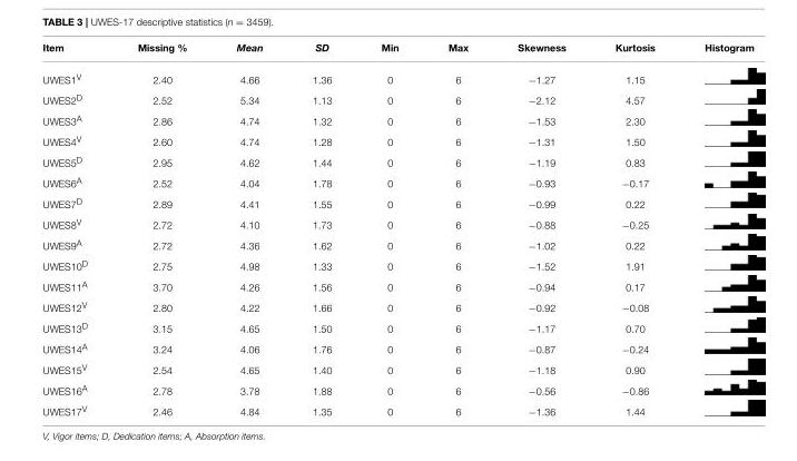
<table><thead><tr><td>Item</td><td>Missing %</td><td>Mean</td><td>SD</td><td>Min</td><td>Max</td><td>Skewness</td><td>Kurtosis</td><td>Histogram</td></tr></thead><tbody><tr><td>UWES1<sup>V</sup></td><td>2.40</td><td>4.66</td><td>1.36</td><td>0</td><td>6</td><td>−1.27</td><td>1.15</td><td></td></tr><tr><td>UWES2<sup>D</sup></td><td>2.52</td><td>5.34</td><td>1.13</td><td>0</td><td>6</td><td>−2.12</td><td>4.57</td><td></td></tr><tr><td>UWES3<sup>A</sup></td><td>2.86</td><td>4.74</td><td>1.32</td><td>0</td><td>6</td><td>−1.53</td><td>2.30</td><td></td></tr><tr><td>UWES4<sup>V</sup></td><td>2.60</td><td>4.74</td><td>1.28</td><td>0</td><td>6</td><td>−1.31</td><td>1.50</td><td></td></tr><tr><td>UWES5<sup>D</sup></td><td>2.95</td><td>4.62</td><td>1.44</td><td>0</td><td>6</td><td>−1.19</td><td>0.83</td><td></td></tr><tr><td>UWES6<sup>A</sup></td><td>2.52</td><td>4.04</td><td>1.78</td><td>0</td><td>6</td><td>−0.93</td><td>−0.17</td><td></td></tr><tr><td>UWES7<sup>D</sup></td><td>2.89</td><td>4.41</td><td>1.55</td><td>0</td><td>6</td><td>−0.99</td><td>0.22</td><td></td></tr><tr><td>UWES8<sup>V</sup></td><td>2.72</td><td>4.10</td><td>1.73</td><td>0</td><td>6</td><td>−0.88</td><td>−0.25</td><td></td></tr><tr><td>UWES9<sup>A</sup></td><td>2.72</td><td>4.36</td><td>1.62</td><td>0</td><td>6</td><td>−1.02</td><td>0.22</td><td></td></tr><tr><td>UWES10<sup>D</sup></td><td>2.75</td><td>4.98</td><td>1.33</td><td>0</td><td>6</td><td>−1.52</td><td>1.91</td><td></td></tr><tr><td>UWES11<sup>A</sup></td><td>3.70</td><td>4.26</td><td>1.56</td><td>0</td><td>6</td><td>−0.94</td><td>0.17</td><td></td></tr><tr><td>UWES12<sup>V</sup></td><td>2.80</td><td>4.22</td><td>1.66</td><td>0</td><td>6</td><td>−0.92</td><td>−0.08</td><td></td></tr><tr><td>UWES13<sup>D</sup></td><td>3.15</td><td>4.65</td><td>1.50</td><td>0</td><td>6</td><td>−1.17</td><td>0.70</td><td></td></tr><tr><td>UWES14<sup>A</sup></td><td>3.24</td><td>4.06</td><td>1.76</td><td>0</td><td>6</td><td>−0.87</td><td>−0.24</td><td></td></tr><tr><td>UWES15<sup>V</sup></td><td>2.54</td><td>4.65</td><td>1.40</td><td>0</td><td>6</td><td>−1.18</td><td>0.90</td><td></td></tr><tr><td>UWES16<sup>A</sup></td><td>2.78</td><td>3.78</td><td>1.88</td><td>0</td><td>6</td><td>−0.56</td><td>−0.86</td><td></td></tr><tr><td>UWES17<sup>V</sup></td><td>2.46</td><td>4.84</td><td>1.35</td><td>0</td><td>6</td><td>−1.36</td><td>1.44</td><td></td></tr></tbody></table>